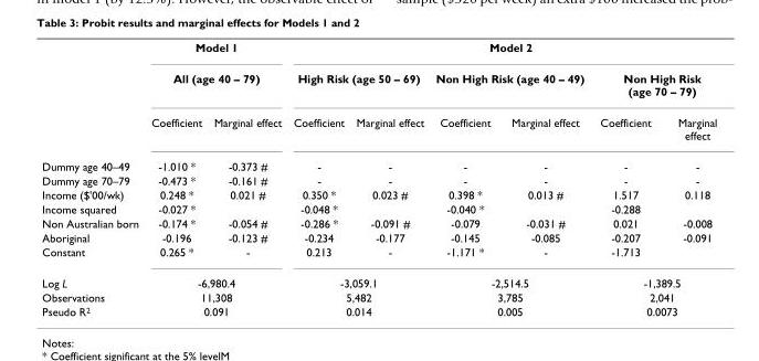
<table><thead><tr><td rowspan="3"></td><td rowspan="2" colspan="2">Model 1 All (age 40 – 79)</td><td colspan="6">Model 2</td></tr><tr><td colspan="2">High Risk (age 50 – 69)</td><td colspan="2">Non High Risk (age 40 – 49)</td><td colspan="2">Non High Risk (age 70 – 79)</td></tr><tr><td>Coefficient</td><td>Marginal effect</td><td>Coefficient</td><td>Marginal effect</td><td>Coefficient</td><td>Marginal effect</td><td>Coefficient</td><td>Marginal effect</td></tr></thead><tbody><tr><td>Dummy age 40–49</td><td>-1.010 *</td><td>-0.373 #</td><td>-</td><td>-</td><td>-</td><td>-</td><td>-</td><td>-</td></tr><tr><td>Dummy age 70–79</td><td>-0.473 *</td><td>-0.161 #</td><td>-</td><td>-</td><td>-</td><td>-</td><td>-</td><td>-</td></tr><tr><td>Income ($&#x27;00/wk)</td><td>0.248 *</td><td>0.021 #</td><td>0.350 *</td><td>0.023 #</td><td>0.398 *</td><td>0.013 #</td><td>1.517</td><td>0.118</td></tr><tr><td>Income squared</td><td>-0.027 *</td><td></td><td>-0.048 *</td><td></td><td>-0.040 *</td><td></td><td>-0.288</td><td></td></tr><tr><td>Non Australian born</td><td>-0.174 *</td><td>-0.054 #</td><td>-0.286 *</td><td>-0.091 #</td><td>-0.079</td><td>-0.031 #</td><td>0.021</td><td>-0.008</td></tr><tr><td>Aboriginal</td><td>-0.196</td><td>-0.123 #</td><td>-0.234</td><td>-0.177</td><td>-0.145</td><td>-0.085</td><td>-0.207</td><td>-0.091</td></tr><tr><td>Constant</td><td>0.265 *</td><td>-</td><td>0.213</td><td>-</td><td>-1.171 *</td><td>-</td><td>-1.713</td><td></td></tr><tr><td>Log L</td><td colspan="2">-6,980.4</td><td colspan="2">-3,059.1</td><td colspan="2">-2,514.5</td><td colspan="2">-1,389.5</td></tr><tr><td>Observations</td><td colspan="2">11,308</td><td colspan="2">5,482</td><td colspan="2">3,785</td><td colspan="2">2,041</td></tr><tr><td>Pseudo R<sup>2</sup></td><td colspan="2">0.091</td><td colspan="2">0.014</td><td colspan="2">0.005</td><td colspan="2">0.0073</td></tr></tbody></table>